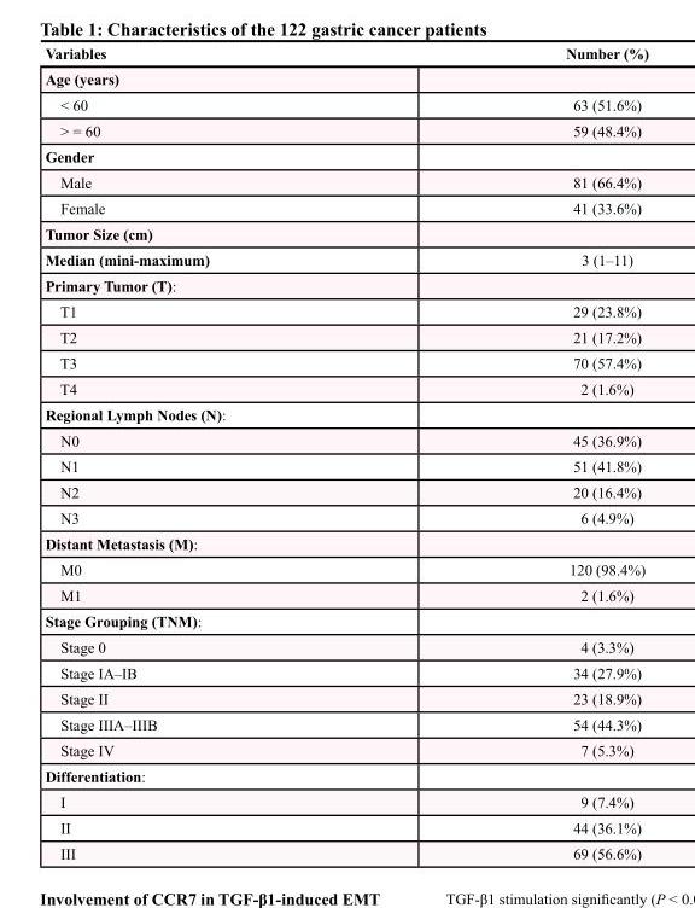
<table><thead><tr><td>Variables</td><td>Number (%)</td></tr></thead><tbody><tr><td colspan="2">Age (years)</td></tr><tr><td>&lt; 60</td><td>63 (51.6%)</td></tr><tr><td>&gt; = 60</td><td>59 (48.4%)</td></tr><tr><td colspan="2">Gender</td></tr><tr><td>Male</td><td>81 (66.4%)</td></tr><tr><td>Female</td><td>41 (33.6%)</td></tr><tr><td colspan="2">Tumor Size (cm)</td></tr><tr><td>Median (mini-maximum)</td><td>3 (1–11)</td></tr><tr><td colspan="2">Primary Tumor (T):</td></tr><tr><td>T1</td><td>29 (23.8%)</td></tr><tr><td>T2</td><td>21 (17.2%)</td></tr><tr><td>T3</td><td>70 (57.4%)</td></tr><tr><td>T4</td><td>2 (1.6%)</td></tr><tr><td colspan="2">Regional Lymph Nodes (N):</td></tr><tr><td>N0</td><td>45 (36.9%)</td></tr><tr><td>N1</td><td>51 (41.8%)</td></tr><tr><td>N2</td><td>20 (16.4%)</td></tr><tr><td>N3</td><td>6 (4.9%)</td></tr><tr><td colspan="2">Distant Metastasis (M):</td></tr><tr><td>M0</td><td>120 (98.4%)</td></tr><tr><td>M1</td><td>2 (1.6%)</td></tr><tr><td colspan="2">Stage Grouping (TNM):</td></tr><tr><td>Stage 0</td><td>4 (3.3%)</td></tr><tr><td>Stage IA–IB</td><td>34 (27.9%)</td></tr><tr><td>Stage II</td><td>23 (18.9%)</td></tr><tr><td>Stage IIIA–IIIB</td><td>54 (44.3%)</td></tr><tr><td>Stage IV</td><td>7 (5.3%)</td></tr><tr><td colspan="2">Differentiation:</td></tr><tr><td>I</td><td>9 (7.4%)</td></tr><tr><td>II</td><td>44 (36.1%)</td></tr><tr><td>III</td><td>69 (56.6%)</td></tr></tbody></table>